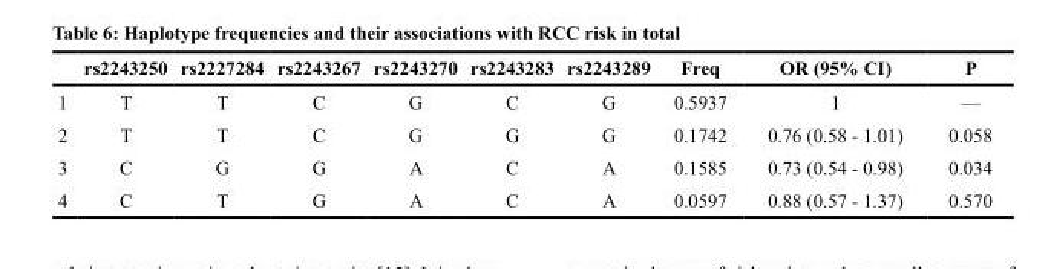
<table><thead><tr><td></td><td>rs2243250</td><td>rs2227284</td><td>rs2243267</td><td>rs2243270</td><td>rs2243283</td><td>rs2243289</td><td>Freq</td><td>OR (95% CI)</td><td>P</td></tr></thead><tbody><tr><td>1</td><td>T</td><td>T</td><td>C</td><td>G</td><td>C</td><td>G</td><td>0.5937</td><td>1</td><td>—</td></tr><tr><td>2</td><td>T</td><td>T</td><td>C</td><td>G</td><td>G</td><td>G</td><td>0.1742</td><td>0.76 (0.58 - 1.01)</td><td>0.058</td></tr><tr><td>3</td><td>C</td><td>G</td><td>G</td><td>A</td><td>C</td><td>A</td><td>0.1585</td><td>0.73 (0.54 - 0.98)</td><td>0.034</td></tr><tr><td>4</td><td>C</td><td>T</td><td>G</td><td>A</td><td>C</td><td>A</td><td>0.0597</td><td>0.88 (0.57 - 1.37)</td><td>0.570</td></tr></tbody></table>